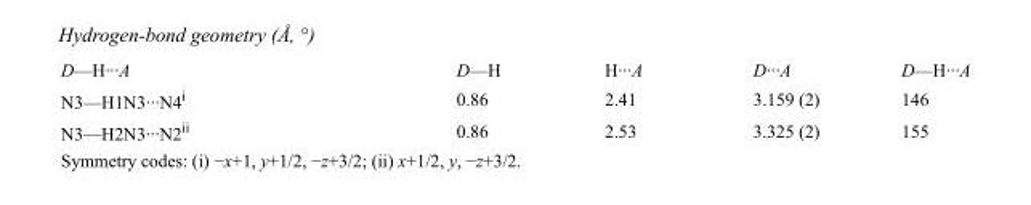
<table><tbody><tr><td>D—H···A</td><td>D—H</td><td>H···A</td><td>D···A</td><td>D—H···A</td></tr><tr><td>N3—H1N3···N4<sup>i</sup></td><td>0.86</td><td>2.41</td><td>3.159 (2)</td><td>146</td></tr><tr><td>N3—H2N3···N2<sup>ii</sup></td><td>0.86</td><td>2.53</td><td>3.325 (2)</td><td>155</td></tr></tbody></table>